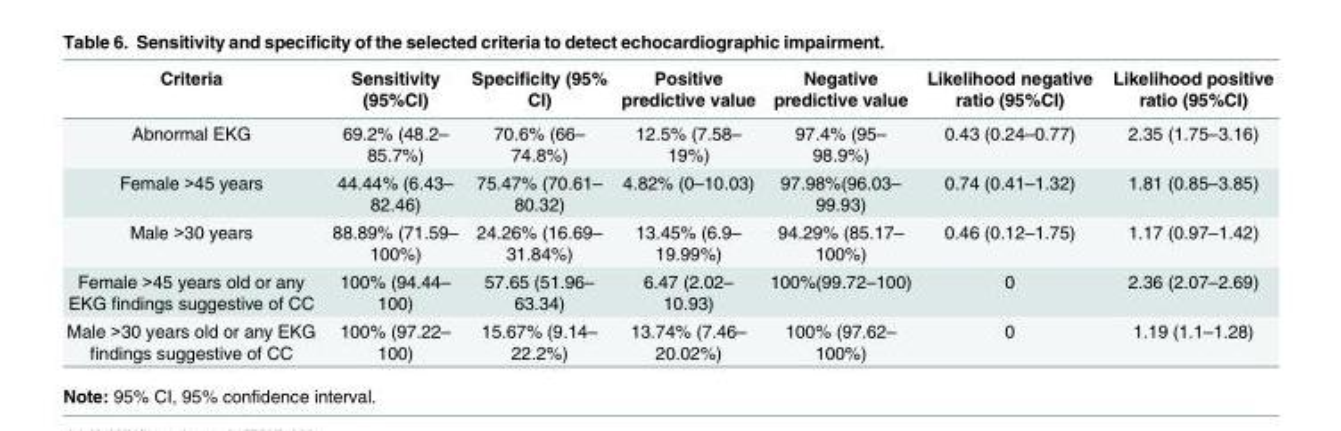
<table><thead><tr><td>Criteria</td><td>Sensitivity (95%CI)</td><td>Specificity (95% CI)</td><td>Positive predictive value</td><td>Negative predictive value</td><td>Likelihood negative ratio (95%CI)</td><td>Likelihood positive ratio (95%CI)</td></tr></thead><tbody><tr><td>Abnormal EKG</td><td>69.2% (48.2– 85.7%)</td><td>70.6% (66– 74.8%)</td><td>12.5% (7.58– 19%)</td><td>97.4% (95– 98.9%)</td><td>0.43 (0.24–0.77)</td><td>2.35 (1.75–3.16)</td></tr><tr><td>Female &gt;45 years</td><td>44.44% (6.43– 82.46)</td><td>75.47% (70.61– 80.32)</td><td>4.82% (0–10.03)</td><td>97.98%(96.03– 99.93)</td><td>0.74 (0.41–1.32)</td><td>1.81 (0.85–3.85)</td></tr><tr><td>Male &gt;30 years</td><td>88.89% (71.59– 100%)</td><td>24.26% (16.69– 31.84%)</td><td>13.45% (6.9– 19.99%)</td><td>94.29% (85.17– 100%)</td><td>0.46 (0.12–1.75)</td><td>1.17 (0.97–1.42)</td></tr><tr><td>Female &gt;45 years old or any EKG findings suggestive of CC</td><td>100% (94.44– 100)</td><td>57.65 (51.96– 63.34)</td><td>6.47 (2.02– 10.93)</td><td>100%(99.72–100)</td><td>0</td><td>2.36 (2.07–2.69)</td></tr><tr><td>Male &gt;30 years old or any EKG findings suggestive of CC</td><td>100% (97.22– 100)</td><td>15.67% (9.14– 22.2%)</td><td>13.74% (7.46– 20.02%)</td><td>100% (97.62– 100%)</td><td>0</td><td>1.19 (1.1–1.28)</td></tr></tbody></table>